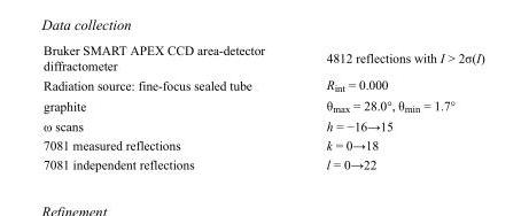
<table><tbody><tr><td>Bruker SMART APEX CCD area-detector diffractometer</td><td>4812 reflections with I &gt; 2σ(I)</td></tr><tr><td>Radiation source: fine-focus sealed tube</td><td>R<sub>int</sub> = 0.000</td></tr><tr><td>graphite</td><td>θ<sub>max</sub> = 28.0°, θ<sub>min</sub> = 1.7°</td></tr><tr><td>ω scans</td><td>h = −16→15</td></tr><tr><td>7081 measured reflections</td><td>k = 0→18</td></tr><tr><td>7081 independent reflections</td><td>l = 0→22</td></tr></tbody></table>